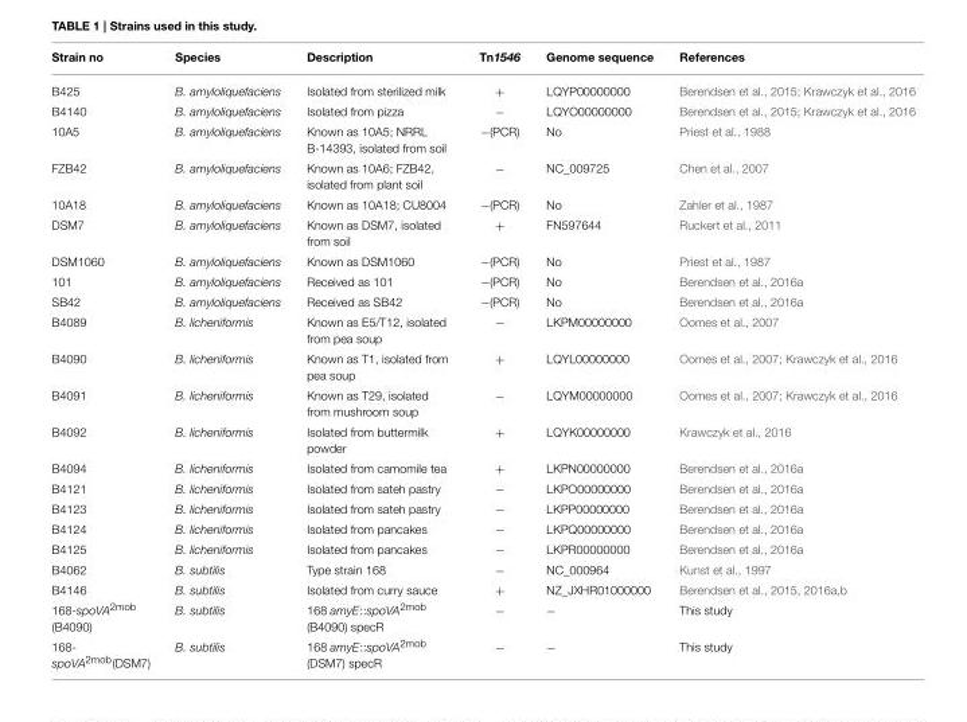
<table><thead><tr><td>Strain no</td><td>Species</td><td>Description</td><td>Tn1546</td><td>Genome sequence</td><td>References</td></tr></thead><tbody><tr><td>B425</td><td>B. amyloliquefaciens</td><td>Isolated from sterilized milk</td><td>+</td><td>LQYP00000000</td><td>Berendsen et al., 2015; Krawczyk et al., 2016</td></tr><tr><td>B4140</td><td>B. amyloliquefaciens</td><td>Isolated from pizza</td><td>−</td><td>LQYO00000000</td><td>Berendsen et al., 2015; Krawczyk et al., 2016</td></tr><tr><td>10A5</td><td>B. amyloliquefaciens</td><td>Known as 10A5; NRRL B-14393, isolated from soil</td><td>−(PCR)</td><td>No</td><td>Priest et al., 1988</td></tr><tr><td>FZB42</td><td>B. amyloliquefaciens</td><td>Known as 10A6; FZB42, isolated from plant soil</td><td>−</td><td>NC_009725</td><td>Chen et al., 2007</td></tr><tr><td>10A18</td><td>B. amyloliquefaciens</td><td>Known as 10A18; CU8004</td><td>−(PCR)</td><td>No</td><td>Zahler et al., 1987</td></tr><tr><td>DSM7</td><td>B. amyloliquefaciens</td><td>Known as DSM7, isolated from soil</td><td>+</td><td>FN597644</td><td>Ruckert et al., 2011</td></tr><tr><td>DSM1060</td><td>B. amyloliquefaciens</td><td>Known as DSM1060</td><td>−(PCR)</td><td>No</td><td>Priest et al., 1987</td></tr><tr><td>101</td><td>B. amyloliquefaciens</td><td>Received as 101</td><td>−(PCR)</td><td>No</td><td>Berendsen et al., 2016a</td></tr><tr><td>SB42</td><td>B. amyloliquefaciens</td><td>Received as SB42</td><td>−(PCR)</td><td>No</td><td>Berendsen et al., 2016a</td></tr><tr><td>B4089</td><td>B. licheniformis</td><td>Known as E5/T12, isolated from pea soup</td><td>−</td><td>LKPM00000000</td><td>Oomes et al., 2007</td></tr><tr><td>B4090</td><td>B. licheniformis</td><td>Known as T1, isolated from pea soup</td><td>+</td><td>LQYL00000000</td><td>Oomes et al., 2007; Krawczyk et al., 2016</td></tr><tr><td>B4091</td><td>B. licheniformis</td><td>Known as T29, isolated from mushroom soup</td><td>−</td><td>LQYM00000000</td><td>Oomes et al., 2007; Krawczyk et al., 2016</td></tr><tr><td>B4092</td><td>B. licheniformis</td><td>Isolated from buttermilk powder</td><td>+</td><td>LQYK00000000</td><td>Krawczyk et al., 2016</td></tr><tr><td>B4094</td><td>B. licheniformis</td><td>Isolated from camomile tea</td><td>+</td><td>LKPN00000000</td><td>Berendsen et al., 2016a</td></tr><tr><td>B4121</td><td>B. licheniformis</td><td>Isolated from sateh pastry</td><td>−</td><td>LKPO00000000</td><td>Berendsen et al., 2016a</td></tr><tr><td>B4123</td><td>B. licheniformis</td><td>Isolated from sateh pastry</td><td>−</td><td>LKPP00000000</td><td>Berendsen et al., 2016a</td></tr><tr><td>B4124</td><td>B. licheniformis</td><td>Isolated from pancakes</td><td>−</td><td>LKPQ00000000</td><td>Berendsen et al., 2016a</td></tr><tr><td>B4125</td><td>B. licheniformis</td><td>Isolated from pancakes</td><td>−</td><td>LKPR00000000</td><td>Berendsen et al., 2016a</td></tr><tr><td>B4062</td><td>B. subtilis</td><td>Type strain 168</td><td>−</td><td>NC_000964</td><td>Kunst et al., 1997</td></tr><tr><td>B4146</td><td>B. subtilis</td><td>Isolated from curry sauce</td><td>+</td><td>NZ_JXHR01000000</td><td>Berendsen et al., 2015, 2016a,b</td></tr><tr><td>168-spoVA<sup>2mob</sup> (B4090)</td><td>B. subtilis</td><td>168 amyE::spoVA<sup>2mob</sup> (B4090) specR</td><td>−</td><td>−</td><td>This study</td></tr><tr><td>168- spoVA<sup>2mob</sup>(DSM7)</td><td>B. subtilis</td><td>168 amyE::spoVA<sup>2mob</sup> (DSM7) specR</td><td>−</td><td>−</td><td>This study</td></tr></tbody></table>